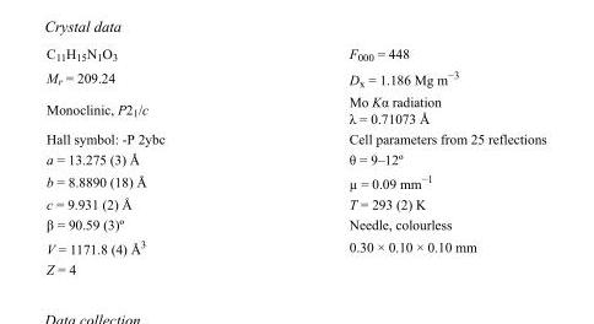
<table><tbody><tr><td>C11H15N1O3</td><td>F000 = 448</td></tr><tr><td>M<sub>r</sub> = 209.24</td><td>D<sub>x</sub> = 1.186 Mg m<sup>−3</sup></td></tr><tr><td>Monoclinic, P2<sub>1</sub>/c</td><td>Mo Kα radiation λ = 0.71073 Å</td></tr><tr><td>Hall symbol: -P 2ybc</td><td>Cell parameters from 25 reflections</td></tr><tr><td>a = 13.275 (3) Å</td><td>θ = 9–12º</td></tr><tr><td>b = 8.8890 (18) Å</td><td>µ = 0.09 mm<sup>−1</sup></td></tr><tr><td>c = 9.931 (2) Å</td><td>T = 293 (2) K</td></tr><tr><td>β = 90.59 (3)º</td><td>Needle, colourless</td></tr><tr><td>V = 1171.8 (4) Å<sup>3</sup></td><td>0.30 × 0.10 × 0.10 mm</td></tr><tr><td>Z = 4</td><td></td></tr></tbody></table>